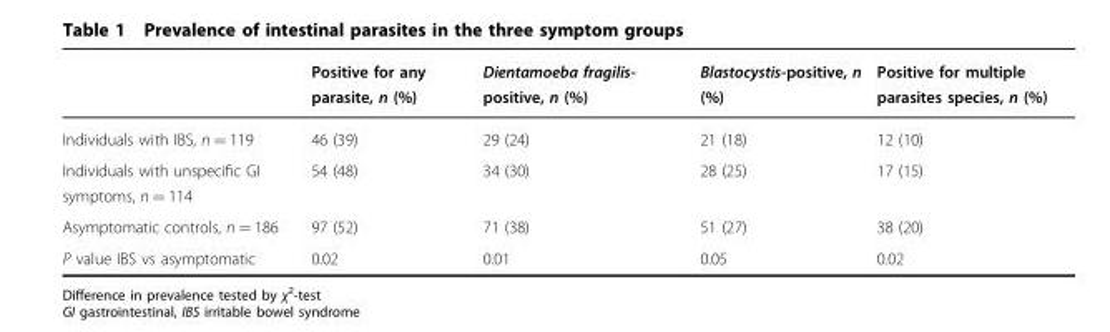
<table><thead><tr><td></td><td>Positive for any parasite, n (%)</td><td>Dientamoeba fragilis- positive, n (%)</td><td>Blastocystis-positive, n (%)</td><td>Positive for multiple parasites species, n (%)</td></tr></thead><tbody><tr><td>Individuals with IBS, n = 119</td><td>46 (39)</td><td>29 (24)</td><td>21 (18)</td><td>12 (10)</td></tr><tr><td>Individuals with unspecific GI symptoms, n = 114</td><td>54 (48)</td><td>34 (30)</td><td>28 (25)</td><td>17 (15)</td></tr><tr><td>Asymptomatic controls, n = 186</td><td>97 (52)</td><td>71 (38)</td><td>51 (27)</td><td>38 (20)</td></tr><tr><td>P value IBS vs asymptomatic</td><td>0.02</td><td>0.01</td><td>0.05</td><td>0.02</td></tr></tbody></table>